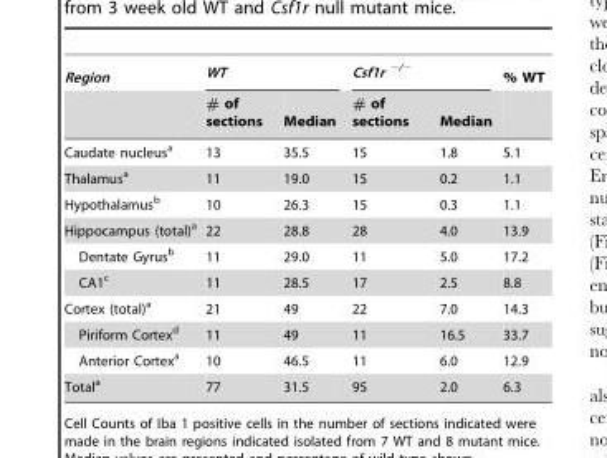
<table><thead><tr><td rowspan="2">Region</td><td colspan="2">WT</td><td colspan="2">Csf1r <sup>−/−</sup></td><td rowspan="2">% WT</td></tr><tr><td># of sections</td><td>Median</td><td># of sections</td><td>Median</td></tr></thead><tbody><tr><td>Caudate nucleus<sup>a</sup></td><td>13</td><td>35.5</td><td>15</td><td>1.8</td><td>5.1</td></tr><tr><td>Thalamus<sup>a</sup></td><td>11</td><td>19.0</td><td>15</td><td>0.2</td><td>1.1</td></tr><tr><td>Hypothalamus<sup>b</sup></td><td>10</td><td>26.3</td><td>15</td><td>0.3</td><td>1.1</td></tr><tr><td>Hippocampus (total)<sup>a</sup></td><td>22</td><td>28.8</td><td>28</td><td>4.0</td><td>13.9</td></tr><tr><td>Dentate Gyrus<sup>b</sup></td><td>11</td><td>29.0</td><td>11</td><td>5.0</td><td>17.2</td></tr><tr><td>CA1<sup>c</sup></td><td>11</td><td>28.5</td><td>17</td><td>2.5</td><td>8.8</td></tr><tr><td>Cortex (total)<sup>a</sup></td><td>21</td><td>49</td><td>22</td><td>7.0</td><td>14.3</td></tr><tr><td>Piriform Cortex<sup>d</sup></td><td>11</td><td>49</td><td>11</td><td>16.5</td><td>33.7</td></tr><tr><td>Anterior Cortex<sup>a</sup></td><td>10</td><td>46.5</td><td>11</td><td>6.0</td><td>12.9</td></tr><tr><td>Total<sup>a</sup></td><td>77</td><td>31.5</td><td>95</td><td>2.0</td><td>6.3</td></tr></tbody></table>